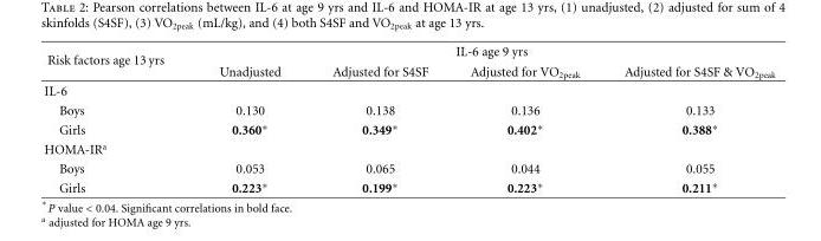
<table><thead><tr><td rowspan="2">Risk factors age 13 yrs</td><td colspan="4">IL-6 age 9 yrs</td></tr><tr><td>Unadjusted</td><td>Adjusted for S4SF</td><td>Adjusted for VO<sub>2peak</sub></td><td>Adjusted for S4SF &amp; VO<sub>2peak</sub></td></tr></thead><tbody><tr><td colspan="5">IL-6</td></tr><tr><td>Boys</td><td>0.130</td><td>0.138</td><td>0.136</td><td>0.133</td></tr><tr><td>Girls</td><td>0.360∗</td><td>0.349∗</td><td>0.402∗</td><td>0.388∗</td></tr><tr><td colspan="5">HOMA-IR<sup>a</sup></td></tr><tr><td>Boys</td><td>0.053</td><td>0.065</td><td>0.044</td><td>0.055</td></tr><tr><td>Girls</td><td>0.223∗</td><td>0.199∗</td><td>0.223∗</td><td>0.211∗</td></tr></tbody></table>